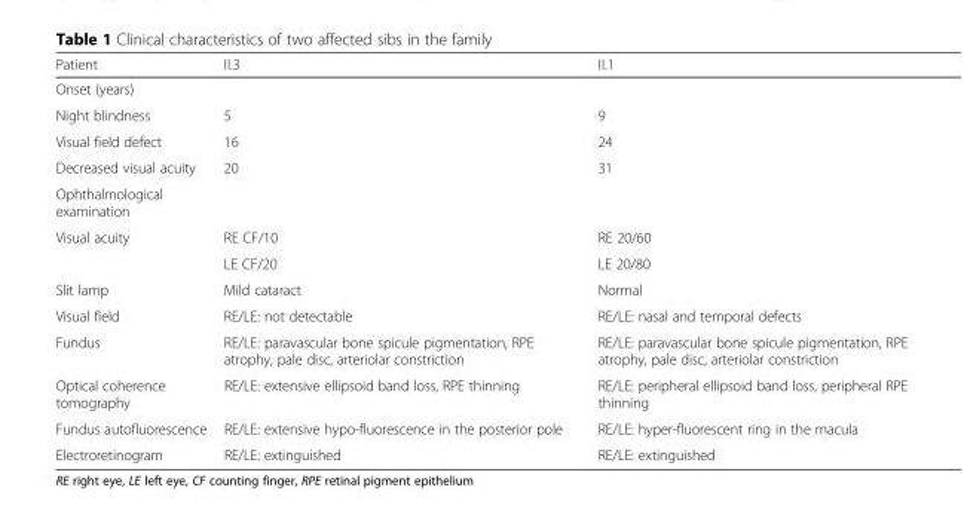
<table><thead><tr><td>Patient</td><td>II.3</td><td>II.1</td></tr></thead><tbody><tr><td colspan="3">Onset (years)</td></tr><tr><td>Night blindness</td><td>5</td><td>9</td></tr><tr><td>Visual field defect</td><td>16</td><td>24</td></tr><tr><td>Decreased visual acuity</td><td>20</td><td>31</td></tr><tr><td colspan="3">Ophthalmological examination</td></tr><tr><td rowspan="2">Visual acuity</td><td>RE CF/10</td><td>RE 20/60</td></tr><tr><td>LE CF/20</td><td>LE 20/80</td></tr><tr><td>Slit lamp</td><td>Mild cataract</td><td>Normal</td></tr><tr><td>Visual field</td><td>RE/LE: not detectable</td><td>RE/LE: nasal and temporal defects</td></tr><tr><td>Fundus</td><td>RE/LE: paravascular bone spicule pigmentation, RPE atrophy, pale disc, arteriolar constriction</td><td>RE/LE: paravascular bone spicule pigmentation, RPE atrophy, pale disc, arteriolar constriction</td></tr><tr><td>Optical coherence tomography</td><td>RE/LE: extensive ellipsoid band loss, RPE thinning</td><td>RE/LE: peripheral ellipsoid band loss, peripheral RPE thinning</td></tr><tr><td>Fundus autofluorescence</td><td>RE/LE: extensive hypo-fluorescence in the posterior pole</td><td>RE/LE: hyper-fluorescent ring in the macula</td></tr><tr><td>Electroretinogram</td><td>RE/LE: extinguished</td><td>RE/LE: extinguished</td></tr></tbody></table>